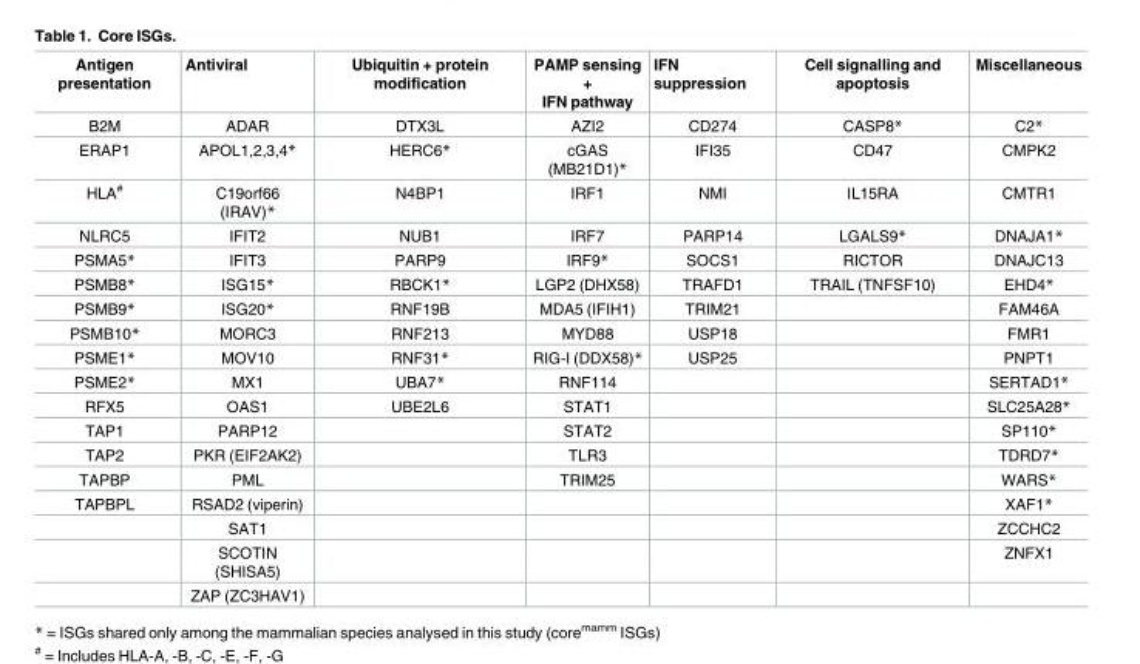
<table><thead><tr><td>Antigen presentation</td><td>Antiviral</td><td>Ubiquitin + protein modification</td><td>PAMP sensing + IFN pathway</td><td>IFN suppression</td><td>Cell signalling and apoptosis</td><td>Miscellaneous</td></tr></thead><tbody><tr><td>B2M</td><td>ADAR</td><td>DTX3L</td><td>AZI2</td><td>CD274</td><td>CASP8*</td><td>C2*</td></tr><tr><td>ERAP1</td><td>APOL1,2,3,4*</td><td>HERC6*</td><td>cGAS (MB21D1)*</td><td>IFI35</td><td>CD47</td><td>CMPK2</td></tr><tr><td>HLA<sup>#</sup></td><td>C19orf66 (IRAV)*</td><td>N4BP1</td><td>IRF1</td><td>NMI</td><td>IL15RA</td><td>CMTR1</td></tr><tr><td>NLRC5</td><td>IFIT2</td><td>NUB1</td><td>IRF7</td><td>PARP14</td><td>LGALS9*</td><td>DNAJA1*</td></tr><tr><td>PSMA5*</td><td>IFIT3</td><td>PARP9</td><td>IRF9*</td><td>SOCS1</td><td>RICTOR</td><td>DNAJC13</td></tr><tr><td>PSMB8*</td><td>ISG15*</td><td>RBCK1*</td><td>LGP2 (DHX58)</td><td>TRAFD1</td><td>TRAIL (TNFSF10)</td><td>EHD4*</td></tr><tr><td>PSMB9*</td><td>ISG20*</td><td>RNF19B</td><td>MDA5 (IFIH1)</td><td>TRIM21</td><td></td><td>FAM46A</td></tr><tr><td>PSMB10*</td><td>MORC3</td><td>RNF213</td><td>MYD88</td><td>USP18</td><td></td><td>FMR1</td></tr><tr><td>PSME1*</td><td>MOV10</td><td>RNF31*</td><td>RIG-I (DDX58)*</td><td>USP25</td><td></td><td>PNPT1</td></tr><tr><td>PSME2*</td><td>MX1</td><td>UBA7*</td><td>RNF114</td><td></td><td></td><td>SERTAD1*</td></tr><tr><td>RFX5</td><td>OAS1</td><td>UBE2L6</td><td>STAT1</td><td></td><td></td><td>SLC25A28*</td></tr><tr><td>TAP1</td><td>PARP12</td><td></td><td>STAT2</td><td></td><td></td><td>SP110*</td></tr><tr><td>TAP2</td><td>PKR (EIF2AK2)</td><td></td><td>TLR3</td><td></td><td></td><td>TDRD7*</td></tr><tr><td>TAPBP</td><td>PML</td><td></td><td>TRIM25</td><td></td><td></td><td>WARS*</td></tr><tr><td rowspan="4">TAPBPL</td><td>RSAD2 (viperin)</td><td></td><td></td><td></td><td></td><td>XAF1*</td></tr><tr><td>SAT1</td><td></td><td></td><td></td><td></td><td>ZCCHC2</td></tr><tr><td>SCOTIN (SHISA5)</td><td></td><td></td><td></td><td></td><td>ZNFX1</td></tr><tr><td>ZAP (ZC3HAV1)</td><td></td><td></td><td></td><td></td><td></td></tr></tbody></table>